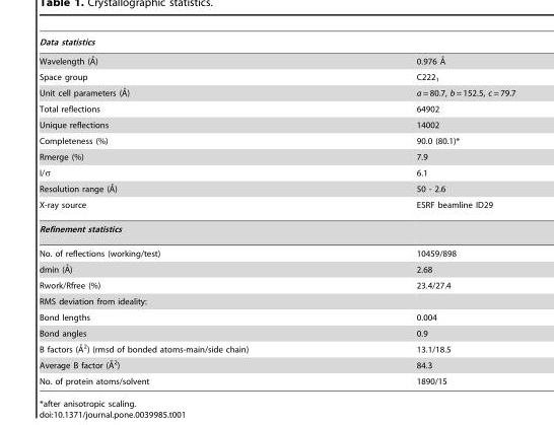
<table><thead><tr><td>Data statistics</td><td></td></tr></thead><tbody><tr><td>Wavelength (A˚)</td><td>0.976 A˚</td></tr><tr><td>Space group</td><td>C222<sub>1</sub></td></tr><tr><td>Unit cell parameters (A˚)</td><td>a = 80.7, b = 152.5, c = 79.7</td></tr><tr><td>Total reflections</td><td>64902</td></tr><tr><td>Unique reflections</td><td>14002</td></tr><tr><td>Completeness (%)</td><td>90.0 (80.1)*</td></tr><tr><td>Rmerge (%)</td><td>7.9</td></tr><tr><td>I/σ</td><td>6.1</td></tr><tr><td>Resolution range (A˚)</td><td>50 - 2.6</td></tr><tr><td>X-ray source</td><td>ESRF beamline ID29</td></tr><tr><td colspan="2">Refinement statistics</td></tr><tr><td>No. of reflections (working/test)</td><td>10459/898</td></tr><tr><td>dmin (A˚)</td><td>2.68</td></tr><tr><td>Rwork/Rfree (%)</td><td>23.4/27.4</td></tr><tr><td colspan="2">RMS deviation from ideality:</td></tr><tr><td>Bond lengths</td><td>0.004</td></tr><tr><td>Bond angles</td><td>0.9</td></tr><tr><td>B factors (A˚ 2) (rmsd of bonded atoms-main/side chain)</td><td>13.1/18.5</td></tr><tr><td>Average B factor (A˚2)</td><td>84.3</td></tr><tr><td>No. of protein atoms/solvent</td><td>1890/15</td></tr></tbody></table>